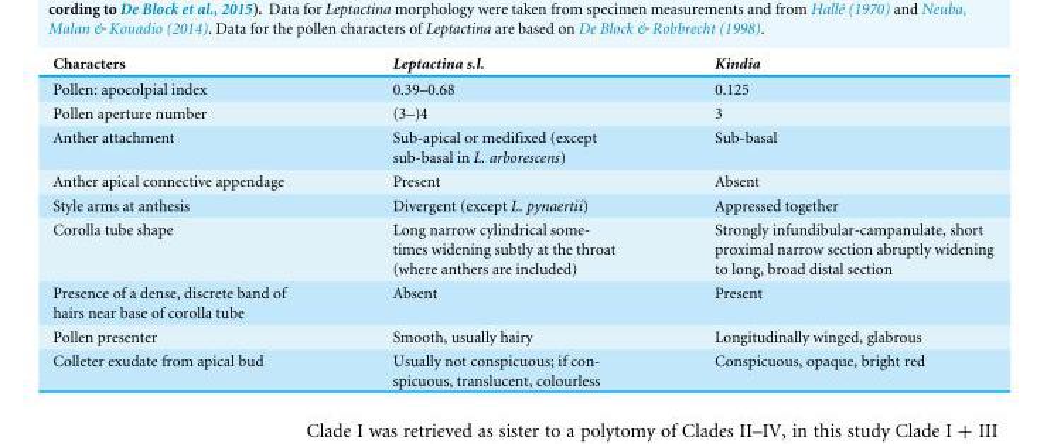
<table><thead><tr><td>Characters</td><td>Leptactina s.l.</td><td>Kindia</td></tr></thead><tbody><tr><td>Pollen: apocolpial index</td><td>0.39–0.68</td><td>0.125</td></tr><tr><td>Pollen aperture number</td><td>(3–)4</td><td>3</td></tr><tr><td>Anther attachment</td><td>Sub-apical or medifixed (except sub-basal in L. arborescens)</td><td>Sub-basal</td></tr><tr><td>Anther apical connective appendage</td><td>Present</td><td>Absent</td></tr><tr><td>Style arms at anthesis</td><td>Divergent (except L. pynaertii)</td><td>Appressed together</td></tr><tr><td>Corolla tube shape</td><td>Long narrow cylindrical some- times widening subtly at the throat (where anthers are included)</td><td>Strongly infundibular-campanulate, short proximal narrow section abruptly widening to long, broad distal section</td></tr><tr><td>Presence of a dense, discrete band of hairs near base of corolla tube</td><td>Absent</td><td>Present</td></tr><tr><td>Pollen presenter</td><td>Smooth, usually hairy</td><td>Longitudinally winged, glabrous</td></tr><tr><td>Colleter exudate from apical bud</td><td>Usually not conspicuous; if con- spicuous, translucent, colourless</td><td>Conspicuous, opaque, bright red</td></tr></tbody></table>